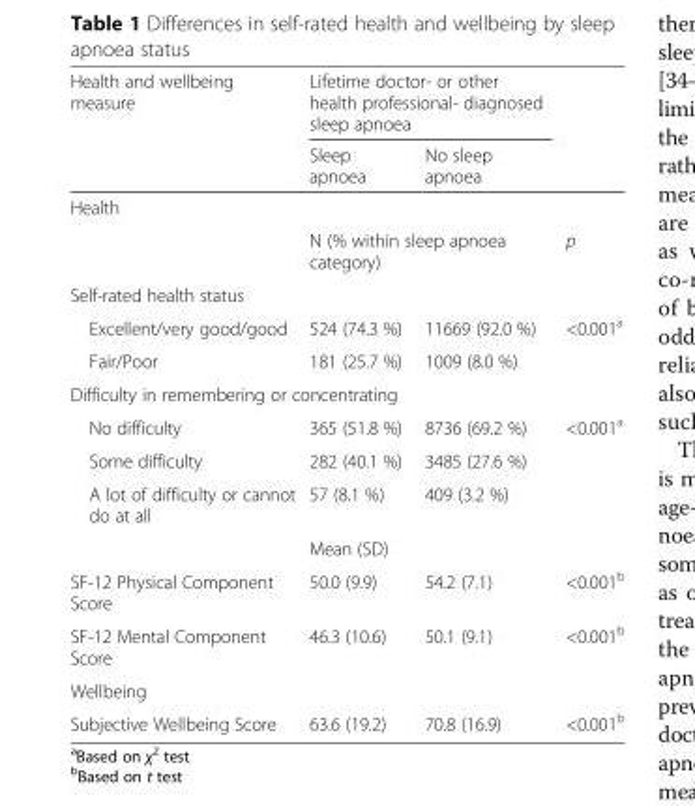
<table><thead><tr><td rowspan="2">Health and wellbeing measure</td><td colspan="2">Lifetime doctor- or other health professional- diagnosed sleep apnoea</td><td rowspan="2"></td></tr><tr><td>Sleep apnoea</td><td>No sleep apnoea</td></tr></thead><tbody><tr><td colspan="4">Health</td></tr><tr><td></td><td colspan="2">N (% within sleep apnoea category)</td><td>p</td></tr><tr><td colspan="4">Self-rated health status</td></tr><tr><td>Excellent/very good/good</td><td>524 (74.3 %)</td><td>11669 (92.0 %)</td><td>&lt;0.001<sup>a</sup></td></tr><tr><td>Fair/Poor</td><td>181 (25.7 %)</td><td>1009 (8.0 %)</td><td></td></tr><tr><td colspan="4">Difficulty in remembering or concentrating</td></tr><tr><td>No difficulty</td><td>365 (51.8 %)</td><td>8736 (69.2 %)</td><td>&lt;0.001<sup>a</sup></td></tr><tr><td>Some difficulty</td><td>282 (40.1 %)</td><td>3485 (27.6 %)</td><td></td></tr><tr><td rowspan="2">A lot of difficulty or cannot do at all</td><td>57 (8.1 %)</td><td>409 (3.2 %)</td><td></td></tr><tr><td colspan="2">Mean (SD)</td><td></td></tr><tr><td>SF-12 Physical Component Score</td><td>50.0 (9.9)</td><td>54.2 (7.1)</td><td>&lt;0.001<sup>b</sup></td></tr><tr><td>SF-12 Mental Component Score</td><td>46.3 (10.6)</td><td>50.1 (9.1)</td><td>&lt;0.001<sup>b</sup></td></tr><tr><td colspan="4">Wellbeing</td></tr><tr><td>Subjective Wellbeing Score</td><td>63.6 (19.2)</td><td>70.8 (16.9)</td><td>&lt;0.001<sup>b</sup></td></tr></tbody></table>